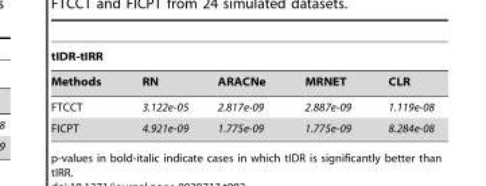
<table><thead><tr><td colspan="5">tIDR-tIRR</td></tr><tr><td>Methods</td><td>RN</td><td>ARACNe</td><td>MRNET</td><td>CLR</td></tr></thead><tbody><tr><td>FTCCT</td><td>3.122e-05</td><td>2.817e-09</td><td>2.887e-09</td><td>1.119e-08</td></tr><tr><td>FICPT</td><td>4.921e-09</td><td>1.775e-09</td><td>1.775e-09</td><td>8.284e-08</td></tr></tbody></table>